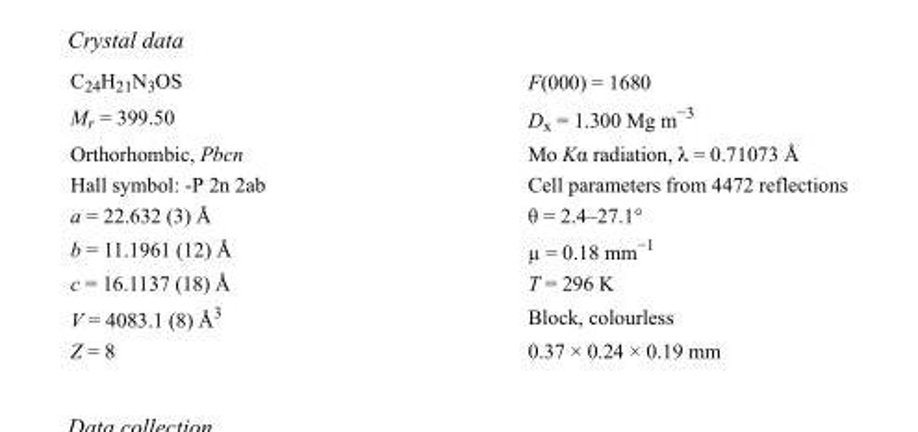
<table><tbody><tr><td>C<sub>24</sub>H<sub>21</sub>N<sub>3</sub>OS</td><td>F(000) = 1680</td></tr><tr><td>M<sub>r</sub> = 399.50</td><td>D<sub>x</sub> = 1.300 Mg m<sup>−3</sup></td></tr><tr><td>Orthorhombic, Pbcn</td><td>Mo Kα radiation, λ = 0.71073 Å</td></tr><tr><td>Hall symbol: -P 2n 2ab</td><td>Cell parameters from 4472 reflections</td></tr><tr><td>a = 22.632 (3) Å</td><td>θ = 2.4–27.1°</td></tr><tr><td>b = 11.1961 (12) Å</td><td>µ = 0.18 mm<sup>−1</sup></td></tr><tr><td>c = 16.1137 (18) Å</td><td>T = 296 K</td></tr><tr><td>V = 4083.1 (8) Å<sup>3</sup></td><td>Block, colourless</td></tr><tr><td>Z = 8</td><td>0.37 × 0.24 × 0.19 mm</td></tr></tbody></table>